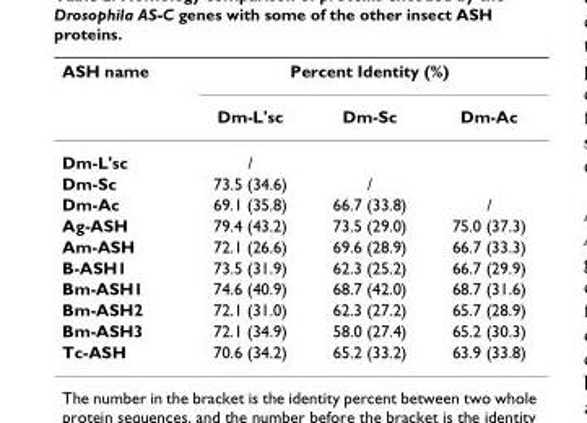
<table><thead><tr><td rowspan="2">ASH name</td><td colspan="3">Percent Identity (%)</td></tr><tr><td>Dm-L&#x27;sc</td><td>Dm-Sc</td><td>Dm-Ac</td></tr></thead><tbody><tr><td>Dm-L&#x27;sc</td><td>/</td><td></td><td></td></tr><tr><td>Dm-Sc</td><td>73.5 (34.6)</td><td>/</td><td></td></tr><tr><td>Dm-Ac</td><td>69.1 (35.8)</td><td>66.7 (33.8)</td><td>/</td></tr><tr><td>Ag-ASH</td><td>79.4 (43.2)</td><td>73.5 (29.0)</td><td>75.0 (37.3)</td></tr><tr><td>Am-ASH</td><td>72.1 (26.6)</td><td>69.6 (28.9)</td><td>66.7 (33.3)</td></tr><tr><td>B-ASH1</td><td>73.5 (31.9)</td><td>62.3 (25.2)</td><td>66.7 (29.9)</td></tr><tr><td>Bm-ASH1</td><td>74.6 (40.9)</td><td>68.7 (42.0)</td><td>68.7 (31.6)</td></tr><tr><td>Bm-ASH2</td><td>72.1 (31.0)</td><td>62.3 (27.2)</td><td>65.7 (28.9)</td></tr><tr><td>Bm-ASH3</td><td>72.1 (34.9)</td><td>58.0 (27.4)</td><td>65.2 (30.3)</td></tr><tr><td>Tc-ASH</td><td>70.6 (34.2)</td><td>65.2 (33.2)</td><td>63.9 (33.8)</td></tr></tbody></table>